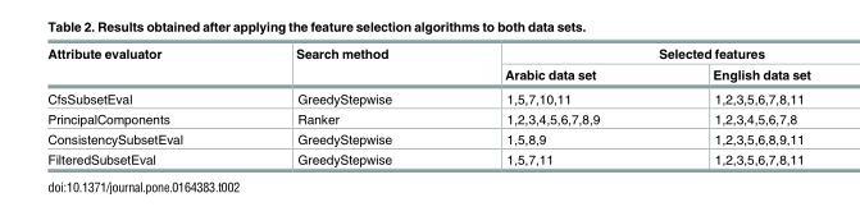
<table><thead><tr><td rowspan="2">Attribute evaluator</td><td rowspan="2">Search method</td><td colspan="2">Selected features</td></tr><tr><td>Arabic data set</td><td>English data set</td></tr></thead><tbody><tr><td>CfsSubsetEval</td><td>GreedyStepwise</td><td>1,5,7,10,11</td><td>1,2,3,5,6,7,8,11</td></tr><tr><td>PrincipalComponents</td><td>Ranker</td><td>1,2,3,4,5,6,7,8,9</td><td>1,2,3,4,5,6,7,8</td></tr><tr><td>ConsistencySubsetEval</td><td>GreedyStepwise</td><td>1,5,8,9</td><td>1,2,3,5,6,8,9,11</td></tr><tr><td>FilteredSubsetEval</td><td>GreedyStepwise</td><td>1,5,7,11</td><td>1,2,3,5,6,7,8,11</td></tr></tbody></table>